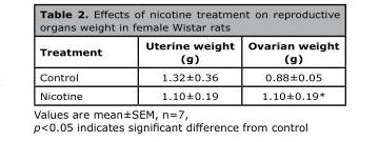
<table><thead><tr><td>Treatment</td><td>Uterine weight (g)</td><td>Ovarian weight (g)</td></tr></thead><tbody><tr><td>Control</td><td>1.32±0.36</td><td>0.88±0.05</td></tr><tr><td>Nicotine</td><td>1.10±0.19</td><td>1.10±0.19*</td></tr></tbody></table>